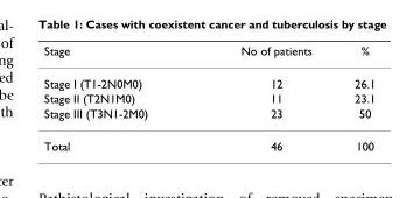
<table><thead><tr><td>Stage</td><td>No of patients</td><td>%</td></tr></thead><tbody><tr><td>Stage I (T1-2N0M0)</td><td>12</td><td>26.1</td></tr><tr><td>Stage II (T2N1M0)</td><td>11</td><td>23.1</td></tr><tr><td>Stage III (T3N1-2M0)</td><td>23</td><td>50</td></tr><tr><td>Total</td><td>46</td><td>100</td></tr></tbody></table>